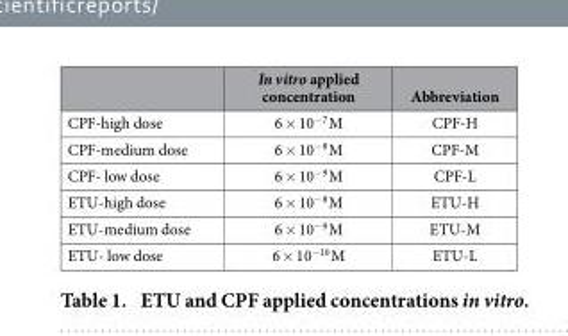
<table><thead><tr><td></td><td>In vitro applied concentration</td><td>Abbreviation</td></tr></thead><tbody><tr><td>CPF-high dose</td><td>6 × 10<sup>−7</sup> M</td><td>CPF-H</td></tr><tr><td>CPF-medium dose</td><td>6 × 10<sup>−8</sup> M</td><td>CPF-M</td></tr><tr><td>CPF- low dose</td><td>6 × 10<sup>−9</sup> M</td><td>CPF-L</td></tr><tr><td>ETU-high dose</td><td>6 × 10<sup>−8</sup> M</td><td>ETU-H</td></tr><tr><td>ETU-medium dose</td><td>6 × 10<sup>−9</sup> M</td><td>ETU-M</td></tr><tr><td>ETU- low dose</td><td>6 × 10<sup>−10</sup> M</td><td>ETU-L</td></tr></tbody></table>